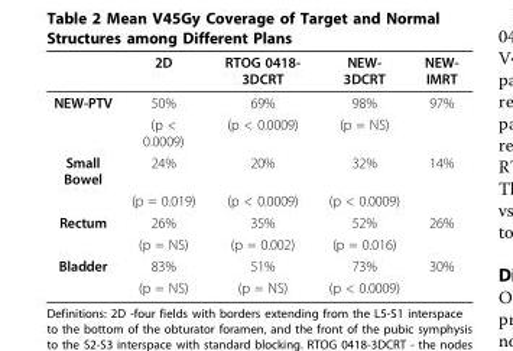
<table><thead><tr><td></td><td>2D</td><td>RTOG 0418- 3DCRT</td><td>NEW- 3DCRT</td><td>NEW- IMRT</td></tr></thead><tbody><tr><td rowspan="2">NEW-PTV</td><td>50%</td><td>69%</td><td>98%</td><td>97%</td></tr><tr><td>(p &lt; 0.0009)</td><td>(p &lt; 0.0009)</td><td>(p = NS)</td><td></td></tr><tr><td rowspan="2">Small Bowel</td><td>24%</td><td>20%</td><td>32%</td><td>14%</td></tr><tr><td>(p = 0.019)</td><td>(p &lt; 0.0009)</td><td>(p &lt; 0.0009)</td><td></td></tr><tr><td rowspan="2">Rectum</td><td>26%</td><td>35%</td><td>52%</td><td>26%</td></tr><tr><td>(p = NS)</td><td>(p = 0.002)</td><td>(p = 0.016)</td><td></td></tr><tr><td rowspan="2">Bladder</td><td>83%</td><td>51%</td><td>73%</td><td>30%</td></tr><tr><td>(p = NS)</td><td>(p = NS)</td><td>(p &lt; 0.0009)</td><td></td></tr></tbody></table>